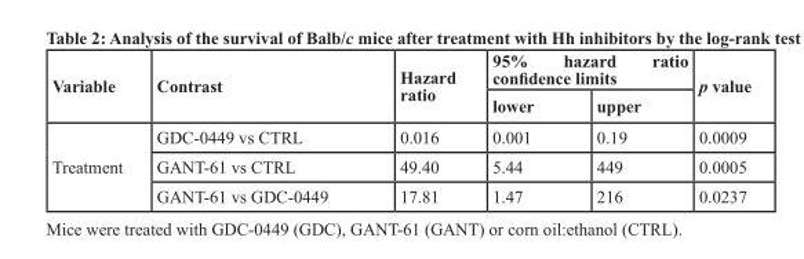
<table><thead><tr><td rowspan="2">Variable</td><td rowspan="2">Contrast</td><td rowspan="2">Hazard ratio</td><td colspan="2">95% hazard ratio confidence limits</td><td rowspan="2">p value</td></tr><tr><td>lower</td><td>upper</td></tr></thead><tbody><tr><td rowspan="3">Treatment</td><td>GDC-0449 vs CTRL</td><td>0.016</td><td>0.001</td><td>0.19</td><td>0.0009</td></tr><tr><td>GANT-61 vs CTRL</td><td>49.40</td><td>5.44</td><td>449</td><td>0.0005</td></tr><tr><td>GANT-61 vs GDC-0449</td><td>17.81</td><td>1.47</td><td>216</td><td>0.0237</td></tr></tbody></table>